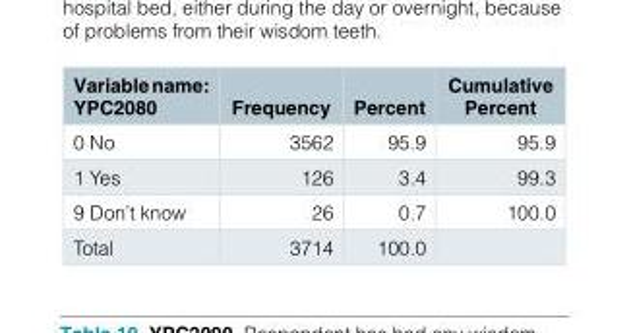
<table><thead><tr><td>Variable name: YPC2080</td><td>Frequency</td><td>Percent</td><td>Cumulative Percent</td></tr></thead><tbody><tr><td>0 No</td><td>3562</td><td>95.9</td><td>95.9</td></tr><tr><td>1 Yes</td><td>126</td><td>3.4</td><td>99.3</td></tr><tr><td>9 Don’t know</td><td>26</td><td>0.7</td><td>100.0</td></tr><tr><td>Total</td><td>3714</td><td>100.0</td><td></td></tr></tbody></table>